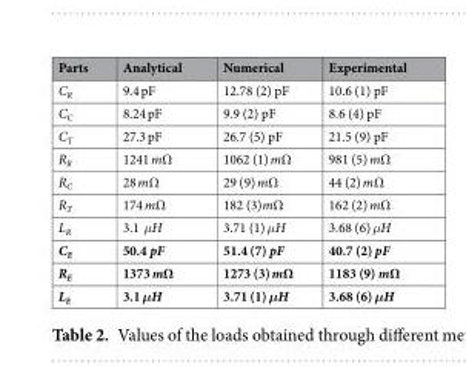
<table><thead><tr><td>Parts</td><td>Analytical</td><td>Numerical</td><td>Experimental</td></tr></thead><tbody><tr><td>C<sub>R</sub></td><td>9.4 pF</td><td>12.78 (2) pF</td><td>10.6 (1) pF</td></tr><tr><td>C<sub>C</sub></td><td>8.24 pF</td><td>9.9 (2) pF</td><td>8.6 (4) pF</td></tr><tr><td>C<sub>T</sub></td><td>27.3 pF</td><td>26.7 (5) pF</td><td>21.5 (9) pF</td></tr><tr><td>R<sub>R</sub></td><td>1241 mΩ</td><td>1062 (1) mΩ</td><td>981 (5) mΩ</td></tr><tr><td>R<sub>C</sub></td><td>28 mΩ</td><td>29 (9) mΩ</td><td>44 (2) mΩ</td></tr><tr><td>R<sub>T</sub></td><td>174 mΩ</td><td>182 (3)mΩ</td><td>162 (2) mΩ</td></tr><tr><td>L<sub>R</sub></td><td>3.1 μH</td><td>3.71 (1) μH</td><td>3.68 (6) μH</td></tr><tr><td>C<sub>E</sub></td><td>50.4 pF</td><td>51.4 (7) pF</td><td>40.7 (2) pF</td></tr><tr><td>R<sub>E</sub></td><td>1373 mΩ</td><td>1273 (3) mΩ</td><td>1183 (9) mΩ</td></tr><tr><td>L<sub>E</sub></td><td>3.1 μH</td><td>3.71 (1) μH</td><td>3.68 (6) μH</td></tr></tbody></table>